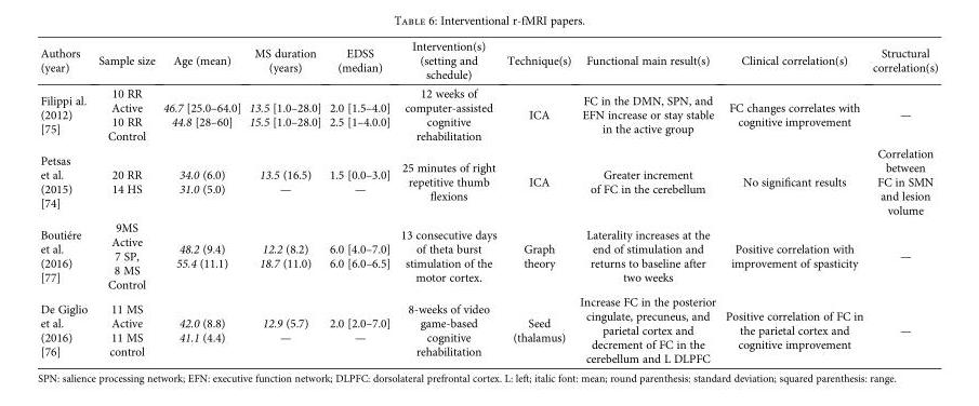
<table><thead><tr><td>Authors (year)</td><td>Sample size</td><td>Age (mean)</td><td>MS duration (years)</td><td>EDSS (median)</td><td>Intervention(s) (setting and schedule)</td><td>Technique(s)</td><td>Functional main result(s)</td><td>Clinical correlation(s)</td><td>Structural correlation(s)</td></tr></thead><tbody><tr><td>Filippi al. (2012) [75]</td><td>10 RR Active 10 RR Control</td><td>46.7 [25.0–64.0] 44.8 [28–60]</td><td>13.5 [1.0–28.0] 15.5 [1.0–28.0]</td><td>2.0 [1.5–4.0] 2.5 [1–4.0.0]</td><td>12 weeks of computer-assisted cognitive rehabilitation</td><td>ICA</td><td>FC in the DMN, SPN, and EFN increase or stay stable in the active group</td><td>FC changes correlates with cognitive improvement</td><td>—</td></tr><tr><td>Petsas et al. (2015) [74]</td><td>20 RR 14 HS</td><td>34.0 (6.0) 31.0 (5.0)</td><td>13.5 (16.5) —</td><td>1.5 [0.0–3.0] —</td><td>25 minutes of right repetitive thumb flexions</td><td>ICA</td><td>Greater increment of FC in the cerebellum</td><td>No significant results</td><td>Correlation between FC in SMN and lesion volume</td></tr><tr><td>Boutiére et al. (2016) [77]</td><td>9MS Active 7 SP, 8 MS Control</td><td>48.2 (9.4) 55.4 (11.1)</td><td>12.2 (8.2) 18.7 (11.0)</td><td>6.0 [4.0–7.0] 6.0 [6.0–6.5]</td><td>13 consecutive days of theta burst stimulation of the motor cortex.</td><td>Graph theory</td><td>Laterality increases at the end of stimulation and returns to baseline after two weeks</td><td>Positive correlation with improvement of spasticity</td><td>—</td></tr><tr><td>De Giglio et al. (2016) [76]</td><td>11 MS Active 11 MS control</td><td>42.0 (8.8) 41.1 (4.4)</td><td>12.9 (5.7) —</td><td>2.0 [2.0–7.0] —</td><td>8-weeks of video game-based cognitive rehabilitation</td><td>Seed (thalamus)</td><td>Increase FC in the posterior cingulate, precuneus, and parietal cortex and decrement of FC in the cerebellum and L DLPFC</td><td>Positive correlation of FC in the parietal cortex and cognitive improvement</td><td>—</td></tr></tbody></table>